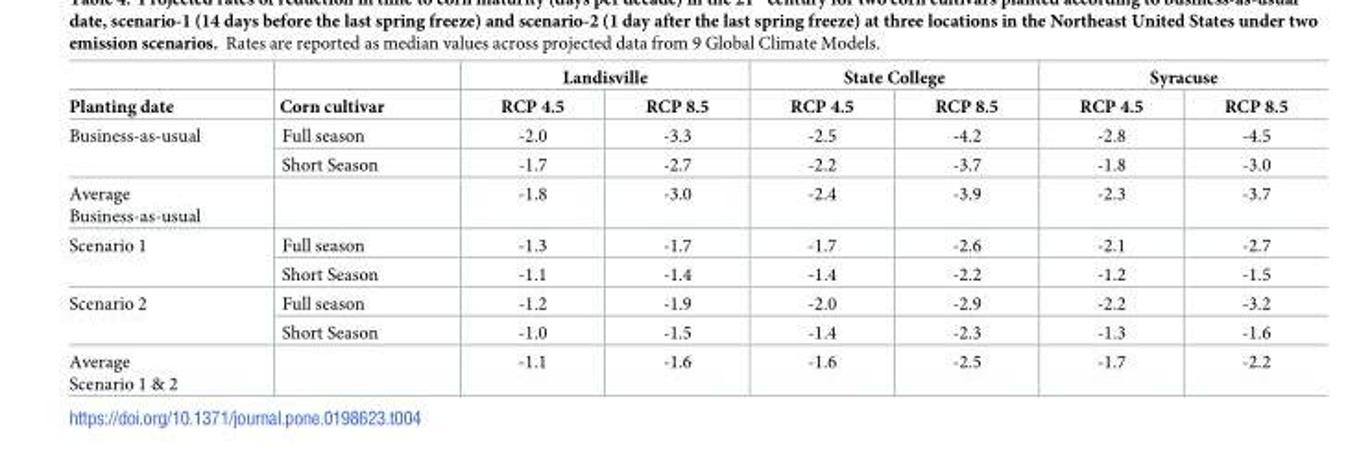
<table><thead><tr><td rowspan="2">Planting date</td><td rowspan="2">Corn cultivar</td><td colspan="2">Landisville</td><td colspan="2">State College</td><td colspan="2">Syracuse</td></tr><tr><td>RCP 4.5</td><td>RCP 8.5</td><td>RCP 4.5</td><td>RCP 8.5</td><td>RCP 4.5</td><td>RCP 8.5</td></tr></thead><tbody><tr><td rowspan="2">Business-as-usual</td><td>Full season</td><td>-2.0</td><td>-3.3</td><td>-2.5</td><td>-4.2</td><td>-2.8</td><td>-4.5</td></tr><tr><td>Short Season</td><td>-1.7</td><td>-2.7</td><td>-2.2</td><td>-3.7</td><td>-1.8</td><td>-3.0</td></tr><tr><td>Average Business-as-usual</td><td></td><td>-1.8</td><td>-3.0</td><td>-2.4</td><td>-3.9</td><td>-2.3</td><td>-3.7</td></tr><tr><td rowspan="2">Scenario 1</td><td>Full season</td><td>-1.3</td><td>-1.7</td><td>-1.7</td><td>-2.6</td><td>-2.1</td><td>-2.7</td></tr><tr><td>Short Season</td><td>-1.1</td><td>-1.4</td><td>-1.4</td><td>-2.2</td><td>-1.2</td><td>-1.5</td></tr><tr><td rowspan="2">Scenario 2</td><td>Full season</td><td>-1.2</td><td>-1.9</td><td>-2.0</td><td>-2.9</td><td>-2.2</td><td>-3.2</td></tr><tr><td>Short Season</td><td>-1.0</td><td>-1.5</td><td>-1.4</td><td>-2.3</td><td>-1.3</td><td>-1.6</td></tr><tr><td>Average Scenario 1 &amp; 2</td><td></td><td>-1.1</td><td>-1.6</td><td>-1.6</td><td>-2.5</td><td>-1.7</td><td>-2.2</td></tr></tbody></table>